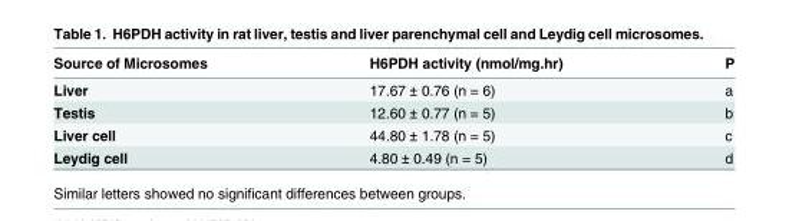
<table><thead><tr><td>Source of Microsomes</td><td>H6PDH activity (nmol/mg.hr)</td><td>P</td></tr></thead><tbody><tr><td>Liver</td><td>17.67 ± 0.76 (n = 6)</td><td>a</td></tr><tr><td>Testis</td><td>12.60 ± 0.77 (n = 5)</td><td>b</td></tr><tr><td>Liver cell</td><td>44.80 ± 1.78 (n = 5)</td><td>c</td></tr><tr><td>Leydig cell</td><td>4.80 ± 0.49 (n = 5)</td><td>d</td></tr></tbody></table>